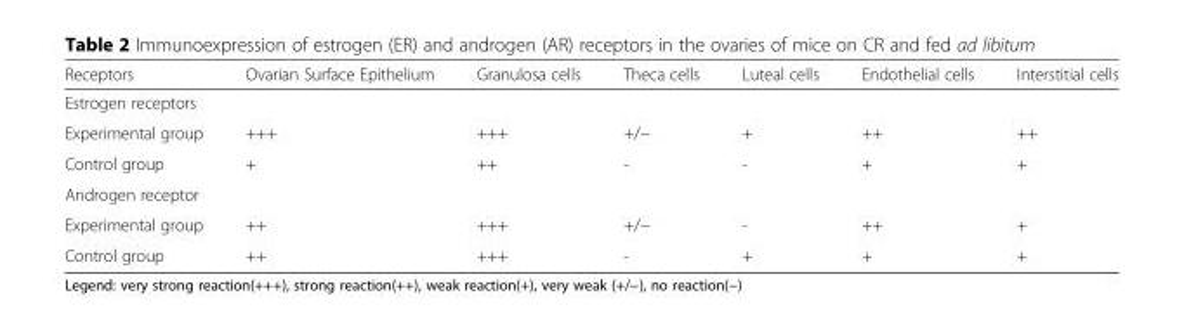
<table><thead><tr><td>Receptors</td><td>Ovarian Surface Epithelium</td><td>Granulosa cells</td><td>Theca cells</td><td>Luteal cells</td><td>Endothelial cells</td><td>Interstitial cells</td></tr></thead><tbody><tr><td colspan="7">Estrogen receptors</td></tr><tr><td>Experimental group</td><td>+++</td><td>+++</td><td>+/−</td><td>+</td><td>++</td><td>++</td></tr><tr><td>Control group</td><td>+</td><td>++</td><td>-</td><td>-</td><td>+</td><td>+</td></tr><tr><td colspan="7">Androgen receptor</td></tr><tr><td>Experimental group</td><td>++</td><td>+++</td><td>+/−</td><td>-</td><td>++</td><td>+</td></tr><tr><td>Control group</td><td>++</td><td>+++</td><td>-</td><td>+</td><td>+</td><td>+</td></tr></tbody></table>